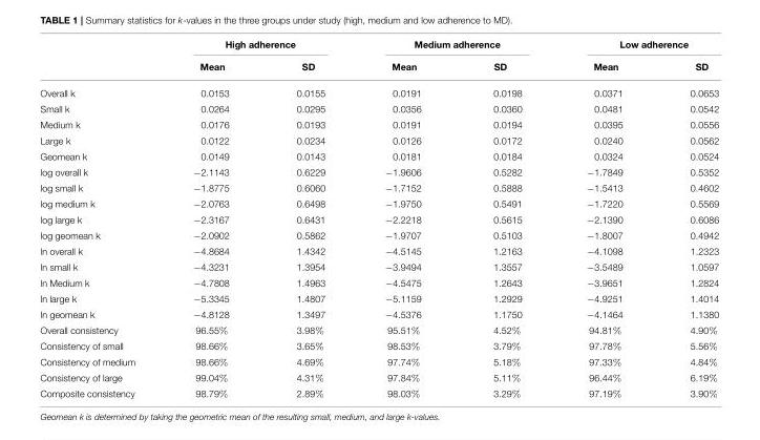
<table><thead><tr><td rowspan="2"></td><td colspan="2">High adherence</td><td colspan="2">Medium adherence</td><td colspan="2">Low adherence</td></tr><tr><td>Mean</td><td>SD</td><td>Mean</td><td>SD</td><td>Mean</td><td>SD</td></tr></thead><tbody><tr><td>Overall k</td><td>0.0153</td><td>0.0155</td><td>0.0191</td><td>0.0198</td><td>0.0371</td><td>0.0653</td></tr><tr><td>Small k</td><td>0.0264</td><td>0.0295</td><td>0.0356</td><td>0.0360</td><td>0.0481</td><td>0.0542</td></tr><tr><td>Medium k</td><td>0.0176</td><td>0.0193</td><td>0.0191</td><td>0.0194</td><td>0.0395</td><td>0.0556</td></tr><tr><td>Large k</td><td>0.0122</td><td>0.0234</td><td>0.0126</td><td>0.0172</td><td>0.0240</td><td>0.0562</td></tr><tr><td>Geomean k</td><td>0.0149</td><td>0.0143</td><td>0.0181</td><td>0.0184</td><td>0.0324</td><td>0.0524</td></tr><tr><td>log overall k</td><td>−2.1143</td><td>0.6229</td><td>−1.9606</td><td>0.5282</td><td>−1.7849</td><td>0.5352</td></tr><tr><td>log small k</td><td>−1.8775</td><td>0.6060</td><td>−1.7152</td><td>0.5888</td><td>−1.5413</td><td>0.4602</td></tr><tr><td>log medium k</td><td>−2.0763</td><td>0.6498</td><td>−1.9750</td><td>0.5491</td><td>−1.7220</td><td>0.5569</td></tr><tr><td>log large k</td><td>−2.3167</td><td>0.6431</td><td>−2.2218</td><td>0.5615</td><td>−2.1390</td><td>0.6086</td></tr><tr><td>log geomean k</td><td>−2.0902</td><td>0.5862</td><td>−1.9707</td><td>0.5103</td><td>−1.8007</td><td>0.4942</td></tr><tr><td>ln overall k</td><td>−4.8684</td><td>1.4342</td><td>−4.5145</td><td>1.2163</td><td>−4.1098</td><td>1.2323</td></tr><tr><td>ln small k</td><td>−4.3231</td><td>1.3954</td><td>−3.9494</td><td>1.3557</td><td>−3.5489</td><td>1.0597</td></tr><tr><td>ln Medium k</td><td>−4.7808</td><td>1.4963</td><td>−4.5475</td><td>1.2643</td><td>−3.9651</td><td>1.2824</td></tr><tr><td>ln large k</td><td>−5.3345</td><td>1.4807</td><td>−5.1159</td><td>1.2929</td><td>−4.9251</td><td>1.4014</td></tr><tr><td>ln geomean k</td><td>−4.8128</td><td>1.3497</td><td>−4.5376</td><td>1.1750</td><td>−4.1464</td><td>1.1380</td></tr><tr><td>Overall consistency</td><td>96.55%</td><td>3.98%</td><td>95.51%</td><td>4.52%</td><td>94.81%</td><td>4.90%</td></tr><tr><td>Consistency of small</td><td>98.66%</td><td>3.65%</td><td>98.53%</td><td>3.79%</td><td>97.78%</td><td>5.56%</td></tr><tr><td>Consistency of medium</td><td>98.66%</td><td>4.69%</td><td>97.74%</td><td>5.18%</td><td>97.33%</td><td>4.84%</td></tr><tr><td>Consistency of large</td><td>99.04%</td><td>4.31%</td><td>97.84%</td><td>5.11%</td><td>96.44%</td><td>6.19%</td></tr><tr><td>Composite consistency</td><td>98.79%</td><td>2.89%</td><td>98.03%</td><td>3.29%</td><td>97.19%</td><td>3.90%</td></tr></tbody></table>